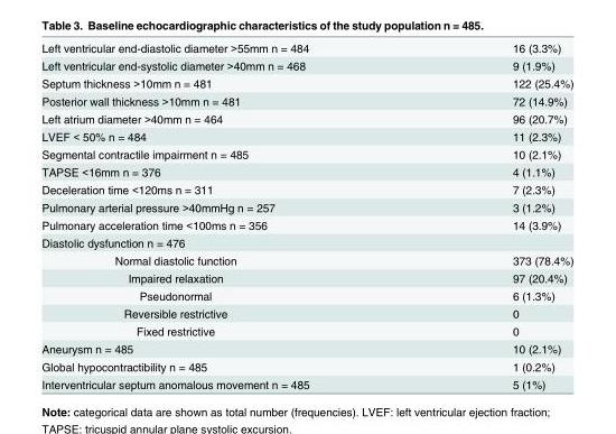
<table><tbody><tr><td>Left ventricular end-diastolic diameter &gt;55mm n = 484</td><td>16 (3.3%)</td></tr><tr><td>Left ventricular end-systolic diameter &gt;40mm n = 468</td><td>9 (1.9%)</td></tr><tr><td>Septum thickness &gt;10mm n = 481</td><td>122 (25.4%)</td></tr><tr><td>Posterior wall thickness &gt;10mm n = 481</td><td>72 (14.9%)</td></tr><tr><td>Left atrium diameter &gt;40mm n = 464</td><td>96 (20.7%)</td></tr><tr><td>LVEF &lt; 50% n = 484</td><td>11 (2.3%)</td></tr><tr><td>Segmental contractile impairment n = 485</td><td>10 (2.1%)</td></tr><tr><td>TAPSE &lt;16mm n = 376</td><td>4 (1.1%)</td></tr><tr><td>Deceleration time &lt;120ms n = 311</td><td>7 (2.3%)</td></tr><tr><td>Pulmonary arterial pressure &gt;40mmHg n = 257</td><td>3 (1.2%)</td></tr><tr><td>Pulmonary acceleration time &lt;100ms n = 356</td><td>14 (3.9%)</td></tr><tr><td colspan="2">Diastolic dysfunction n = 476</td></tr><tr><td>Normal diastolic function</td><td>373 (78.4%)</td></tr><tr><td>Impaired relaxation</td><td>97 (20.4%)</td></tr><tr><td>Pseudonormal</td><td>6 (1.3%)</td></tr><tr><td>Reversible restrictive</td><td>0</td></tr><tr><td>Fixed restrictive</td><td>0</td></tr><tr><td>Aneurysm n = 485</td><td>10 (2.1%)</td></tr><tr><td>Global hypocontractibility n = 485</td><td>1 (0.2%)</td></tr><tr><td>Interventricular septum anomalous movement n = 485</td><td>5 (1%)</td></tr></tbody></table>